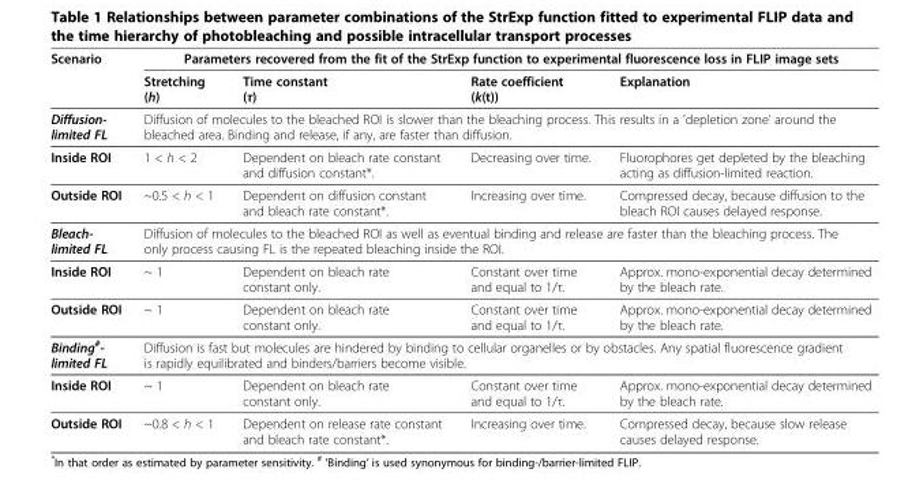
<table><thead><tr><td rowspan="2">Scenario</td><td colspan="4">Parameters recovered from the fit of the StrExp function to experimental fluorescence loss in FLIP image sets</td></tr><tr><td>Stretching (h)</td><td>Time constant (τ)</td><td>Rate coefficient (k(t))</td><td>Explanation</td></tr></thead><tbody><tr><td>Diffusion- limited FL</td><td colspan="4">Diffusion of molecules to the bleached ROI is slower than the bleaching process. This results in a ’depletion zone’ around the bleached area. Binding and release, if any, are faster than diffusion.</td></tr><tr><td>Inside ROI</td><td>1 &lt; h &lt; 2</td><td>Dependent on bleach rate constant and diffusion constant*.</td><td>Decreasing over time.</td><td>Fluorophores get depleted by the bleaching acting as diffusion-limited reaction.</td></tr><tr><td>Outside ROI</td><td>~0.5 &lt; h &lt; 1</td><td>Dependent on diffusion constant and bleach rate constant*.</td><td>Increasing over time.</td><td>Compressed decay, because diffusion to the bleach ROI causes delayed response.</td></tr><tr><td>Bleach- limited FL</td><td colspan="4">Diffusion of molecules to the bleached ROI as well as eventual binding and release are faster than the bleaching process. The only process causing FL is the repeated bleaching inside the ROI.</td></tr><tr><td>Inside ROI</td><td>~ 1</td><td>Dependent on bleach rate constant only.</td><td>Constant over time and equal to 1/τ.</td><td>Approx. mono-exponential decay determined by the bleach rate.</td></tr><tr><td>Outside ROI</td><td>~ 1</td><td>Dependent on bleach rate constant only.</td><td>Constant over time and equal to 1/τ.</td><td>Approx. mono-exponential decay determined by the bleach rate.</td></tr><tr><td>Binding<sup>#</sup>- limited FL</td><td colspan="4">Diffusion is fast but molecules are hindered by binding to cellular organelles or by obstacles. Any spatial fluorescence gradient is rapidly equilibrated and binders/barriers become visible.</td></tr><tr><td>Inside ROI</td><td>~ 1</td><td>Dependent on bleach rate constant only.</td><td>Constant over time and equal to 1/τ.</td><td>Approx. mono-exponential decay determined by the bleach rate.</td></tr><tr><td>Outside ROI</td><td>~0.8 &lt; h &lt; 1</td><td>Dependent on release rate constant and bleach rate constant*.</td><td>Increasing over time.</td><td>Compressed decay, because slow release causes delayed response.</td></tr></tbody></table>